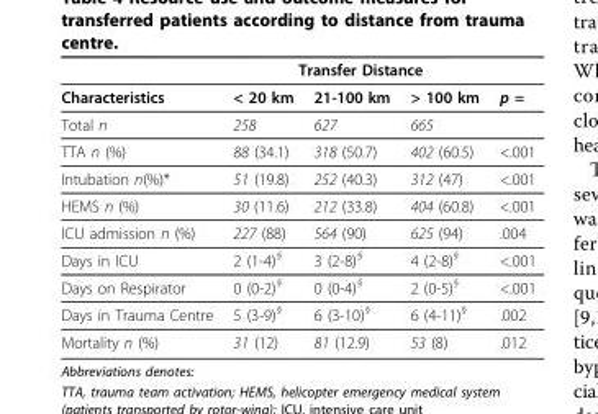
<table><thead><tr><td rowspan="2">Characteristics</td><td colspan="3">Transfer Distance</td><td rowspan="2">p =</td></tr><tr><td>&lt; 20 km</td><td>21-100 km</td><td>&gt; 100 km</td></tr></thead><tbody><tr><td>Total n</td><td>258</td><td>627</td><td>665</td><td></td></tr><tr><td>TTA n (%)</td><td>88 (34.1)</td><td>318 (50.7)</td><td>402 (60.5)</td><td>&lt;.001</td></tr><tr><td>Intubation n(%)*</td><td>51 (19.8)</td><td>252 (40.3)</td><td>312 (47)</td><td>&lt;.001</td></tr><tr><td>HEMS n (%)</td><td>30 (11.6)</td><td>212 (33.8)</td><td>404 (60.8)</td><td>&lt;.001</td></tr><tr><td>ICU admission n (%)</td><td>227 (88)</td><td>564 (90)</td><td>625 (94)</td><td>.004</td></tr><tr><td>Days in ICU</td><td>2 (1-4)§</td><td>3 (2-8)§</td><td>4 (2-8)§</td><td>&lt;.001</td></tr><tr><td>Days on Respirator</td><td>0 (0-2)§</td><td>0 (0-4)§</td><td>2 (0-5)§</td><td>&lt;.001</td></tr><tr><td>Days in Trauma Centre</td><td>5 (3-9)§</td><td>6 (3-10)§</td><td>6 (4-11)§</td><td>.002</td></tr><tr><td>Mortality n (%)</td><td>31 (12)</td><td>81 (12.9)</td><td>53 (8)</td><td>.012</td></tr></tbody></table>